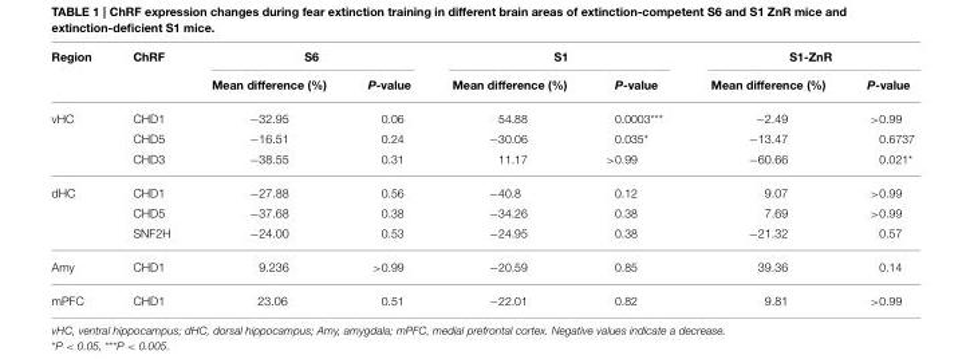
<table><thead><tr><td rowspan="2">Region</td><td rowspan="2">ChRF</td><td colspan="2">S6</td><td colspan="2">S1</td><td colspan="2">S1-ZnR</td></tr><tr><td>Mean difference (%)</td><td>P-value</td><td>Mean difference (%)</td><td>P-value</td><td>Mean difference (%)</td><td>P-value</td></tr></thead><tbody><tr><td rowspan="3">vHC</td><td>CHD1</td><td>−32.95</td><td>0.06</td><td>54.88</td><td>0.0003***</td><td>−2.49</td><td>&gt;0.99</td></tr><tr><td>CHD5</td><td>−16.51</td><td>0.24</td><td>−30.06</td><td>0.035*</td><td>−13.47</td><td>0.6737</td></tr><tr><td>CHD3</td><td>−38.55</td><td>0.31</td><td>11.17</td><td>&gt;0.99</td><td>−60.66</td><td>0.021*</td></tr><tr><td rowspan="3">dHC</td><td>CHD1</td><td>−27.88</td><td>0.56</td><td>−40.8</td><td>0.12</td><td>9.07</td><td>&gt;0.99</td></tr><tr><td>CHD5</td><td>−37.68</td><td>0.38</td><td>−34.26</td><td>0.38</td><td>7.69</td><td>&gt;0.99</td></tr><tr><td>SNF2H</td><td>−24.00</td><td>0.53</td><td>−24.95</td><td>0.38</td><td>−21.32</td><td>0.57</td></tr><tr><td>Amy</td><td>CHD1</td><td>9.236</td><td>&gt;0.99</td><td>−20.59</td><td>0.85</td><td>39.36</td><td>0.14</td></tr><tr><td>mPFC</td><td>CHD1</td><td>23.06</td><td>0.51</td><td>−22.01</td><td>0.82</td><td>9.81</td><td>&gt;0.99</td></tr></tbody></table>